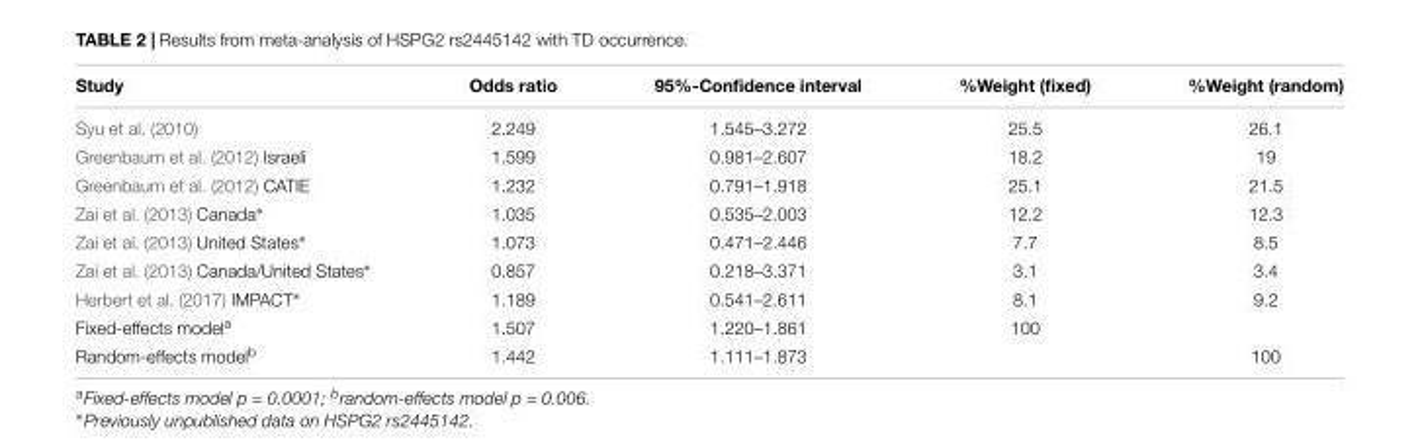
<table><thead><tr><td>Study</td><td>Odds ratio</td><td>95%-Confidence interval</td><td>%Weight (fixed)</td><td>%Weight (random)</td></tr></thead><tbody><tr><td>Syu et al. (2010)</td><td>2.249</td><td>1.545–3.272</td><td>25.5</td><td>26.1</td></tr><tr><td>Greenbaum et al. (2012) Israeli</td><td>1.599</td><td>0.981–2.607</td><td>18.2</td><td>19</td></tr><tr><td>Greenbaum et al. (2012) CATIE</td><td>1.232</td><td>0.791–1.918</td><td>25.1</td><td>21.5</td></tr><tr><td>Zai et al. (2013) Canada∗</td><td>1.035</td><td>0.535–2.003</td><td>12.2</td><td>12.3</td></tr><tr><td>Zai et al. (2013) United States∗</td><td>1.073</td><td>0.471–2.446</td><td>7.7</td><td>8.5</td></tr><tr><td>Zai et al. (2013) Canada/United States∗</td><td>0.857</td><td>0.218–3.371</td><td>3.1</td><td>3.4</td></tr><tr><td>Herbert et al. (2017) IMPACT∗</td><td>1.189</td><td>0.541–2.611</td><td>8.1</td><td>9.2</td></tr><tr><td>Fixed-effects model<sup>a</sup></td><td>1.507</td><td>1.220–1.861</td><td>100</td><td></td></tr><tr><td>Random-effects model<sup>b</sup></td><td>1.442</td><td>1.111–1.873</td><td></td><td>100</td></tr></tbody></table>